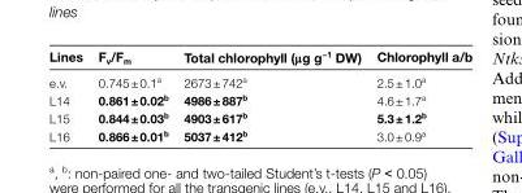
<table><thead><tr><td>Lines</td><td>F<sub>v</sub>/F<sub>m</sub></td><td>Total chlorophyll (μg g<sup>−1</sup> DW)</td><td>Chlorophyll a/b</td></tr></thead><tbody><tr><td>e.v.</td><td>0.745 ± 0.1<sup>a</sup></td><td>2673 ± 742<sup>a</sup></td><td>2.5 ± 1.0<sup>a</sup></td></tr><tr><td>L14</td><td>0.861 ± 0.02<sup>b</sup></td><td>4986 ± 887<sup>b</sup></td><td>4.6 ± 1.7<sup>a</sup></td></tr><tr><td>L15</td><td>0.844 ± 0.03<sup>b</sup></td><td>4903 ± 617<sup>b</sup></td><td>5.3 ± 1.2<sup>b</sup></td></tr><tr><td>L16</td><td>0.866 ± 0.01<sup>b</sup></td><td>5037 ± 412<sup>b</sup></td><td>3.0 ± 0.9<sup>a</sup></td></tr></tbody></table>